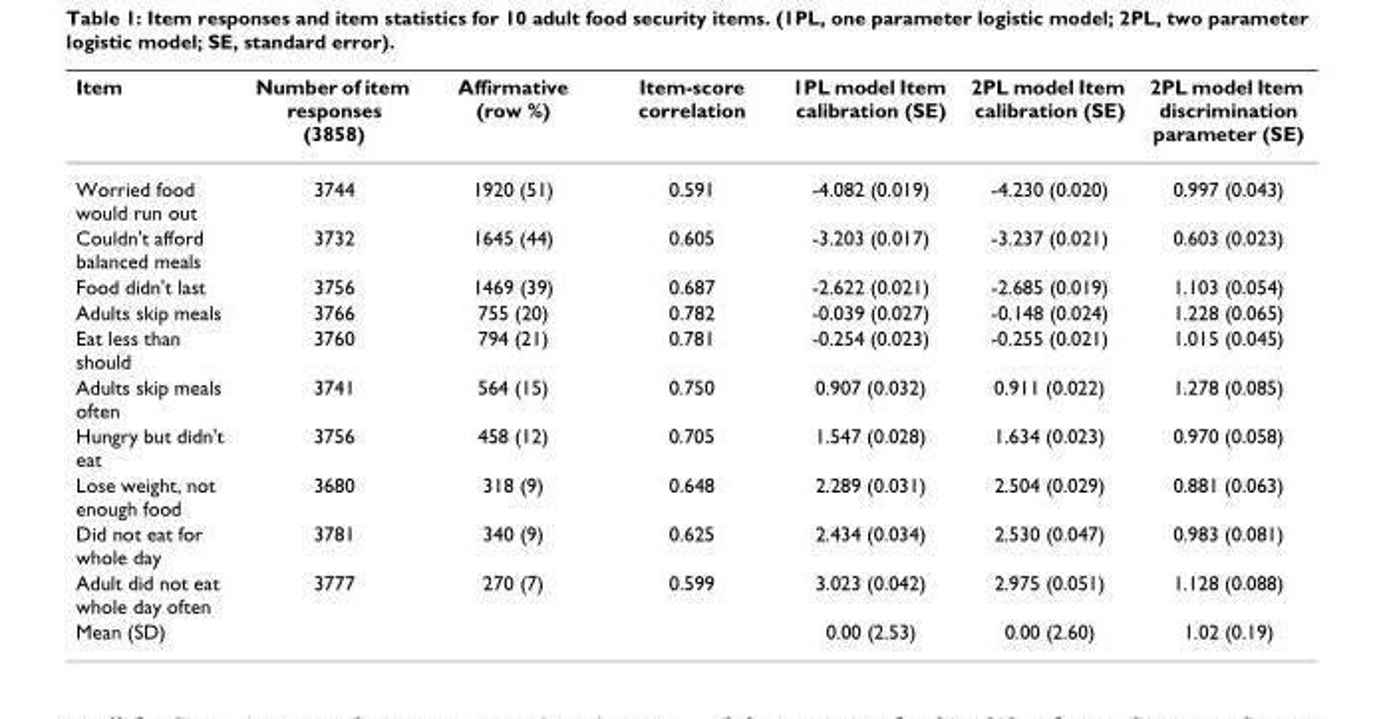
<table><thead><tr><td>Item</td><td>Number of item responses (3858)</td><td>Affirmative (row %)</td><td>Item-score correlation</td><td>1PL model Item calibration (SE)</td><td>2PL model Item calibration (SE)</td><td>2PL model Item discrimination parameter (SE)</td></tr></thead><tbody><tr><td>Worried food would run out</td><td>3744</td><td>1920 (51)</td><td>0.591</td><td>-4.082 (0.019)</td><td>-4.230 (0.020)</td><td>0.997 (0.043)</td></tr><tr><td>Couldn&#x27;t afford balanced meals</td><td>3732</td><td>1645 (44)</td><td>0.605</td><td>-3.203 (0.017)</td><td>-3.237 (0.021)</td><td>0.603 (0.023)</td></tr><tr><td>Food didn&#x27;t last</td><td>3756</td><td>1469 (39)</td><td>0.687</td><td>-2.622 (0.021)</td><td>-2.685 (0.019)</td><td>1.103 (0.054)</td></tr><tr><td>Adults skip meals</td><td>3766</td><td>755 (20)</td><td>0.782</td><td>-0.039 (0.027)</td><td>-0.148 (0.024)</td><td>1.228 (0.065)</td></tr><tr><td>Eat less than should</td><td>3760</td><td>794 (21)</td><td>0.781</td><td>-0.254 (0.023)</td><td>-0.255 (0.021)</td><td>1.015 (0.045)</td></tr><tr><td>Adults skip meals often</td><td>3741</td><td>564 (15)</td><td>0.750</td><td>0.907 (0.032)</td><td>0.911 (0.022)</td><td>1.278 (0.085)</td></tr><tr><td>Hungry but didn&#x27;t eat</td><td>3756</td><td>458 (12)</td><td>0.705</td><td>1.547 (0.028)</td><td>1.634 (0.023)</td><td>0.970 (0.058)</td></tr><tr><td>Lose weight, not enough food</td><td>3680</td><td>318 (9)</td><td>0.648</td><td>2.289 (0.031)</td><td>2.504 (0.029)</td><td>0.881 (0.063)</td></tr><tr><td>Did not eat for whole day</td><td>3781</td><td>340 (9)</td><td>0.625</td><td>2.434 (0.034)</td><td>2.530 (0.047)</td><td>0.983 (0.081)</td></tr><tr><td>Adult did not eat whole day often</td><td>3777</td><td>270 (7)</td><td>0.599</td><td>3.023 (0.042)</td><td>2.975 (0.051)</td><td>1.128 (0.088)</td></tr><tr><td>Mean (SD)</td><td></td><td></td><td></td><td>0.00 (2.53)</td><td>0.00 (2.60)</td><td>1.02 (0.19)</td></tr></tbody></table>